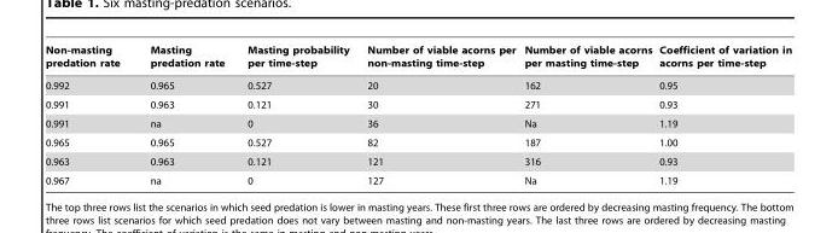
<table><thead><tr><td>Non-masting predation rate</td><td>Masting predation rate</td><td>Masting probability per time-step</td><td>Number of viable acorns per non-masting time-step</td><td>Number of viable acorns per masting time-step</td><td>Coefficient of variation in acorns per time-step</td></tr></thead><tbody><tr><td>0.992</td><td>0.965</td><td>0.527</td><td>20</td><td>162</td><td>0.95</td></tr><tr><td>0.991</td><td>0.963</td><td>0.121</td><td>30</td><td>271</td><td>0.93</td></tr><tr><td>0.991</td><td>na</td><td>0</td><td>36</td><td>Na</td><td>1.19</td></tr><tr><td>0.965</td><td>0.965</td><td>0.527</td><td>82</td><td>187</td><td>1.00</td></tr><tr><td>0.963</td><td>0.963</td><td>0.121</td><td>121</td><td>316</td><td>0.93</td></tr><tr><td>0.967</td><td>na</td><td>0</td><td>127</td><td>Na</td><td>1.19</td></tr></tbody></table>